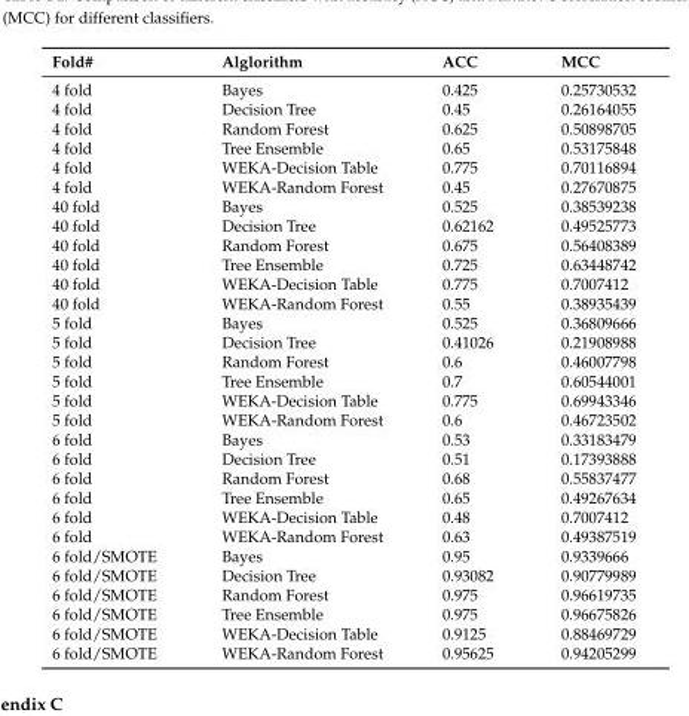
<table><thead><tr><td>Fold#</td><td>Alglorithm</td><td>ACC</td><td>MCC</td></tr></thead><tbody><tr><td>4 fold</td><td>Bayes</td><td>0.425</td><td>0.25730532</td></tr><tr><td>4 fold</td><td>Decision Tree</td><td>0.45</td><td>0.26164055</td></tr><tr><td>4 fold</td><td>Random Forest</td><td>0.625</td><td>0.50898705</td></tr><tr><td>4 fold</td><td>Tree Ensemble</td><td>0.65</td><td>0.53175848</td></tr><tr><td>4 fold</td><td>WEKA-Decision Table</td><td>0.775</td><td>0.70116894</td></tr><tr><td>4 fold</td><td>WEKA-Random Forest</td><td>0.45</td><td>0.27670875</td></tr><tr><td>40 fold</td><td>Bayes</td><td>0.525</td><td>0.38539238</td></tr><tr><td>40 fold</td><td>Decision Tree</td><td>0.62162</td><td>0.49525773</td></tr><tr><td>40 fold</td><td>Random Forest</td><td>0.675</td><td>0.56408389</td></tr><tr><td>40 fold</td><td>Tree Ensemble</td><td>0.725</td><td>0.63448742</td></tr><tr><td>40 fold</td><td>WEKA-Decision Table</td><td>0.775</td><td>0.7007412</td></tr><tr><td>40 fold</td><td>WEKA-Random Forest</td><td>0.55</td><td>0.38935439</td></tr><tr><td>5 fold</td><td>Bayes</td><td>0.525</td><td>0.36809666</td></tr><tr><td>5 fold</td><td>Decision Tree</td><td>0.41026</td><td>0.21908988</td></tr><tr><td>5 fold</td><td>Random Forest</td><td>0.6</td><td>0.46007798</td></tr><tr><td>5 fold</td><td>Tree Ensemble</td><td>0.7</td><td>0.60544001</td></tr><tr><td>5 fold</td><td>WEKA-Decision Table</td><td>0.775</td><td>0.69943346</td></tr><tr><td>5 fold</td><td>WEKA-Random Forest</td><td>0.6</td><td>0.46723502</td></tr><tr><td>6 fold</td><td>Bayes</td><td>0.53</td><td>0.33183479</td></tr><tr><td>6 fold</td><td>Decision Tree</td><td>0.51</td><td>0.17393888</td></tr><tr><td>6 fold</td><td>Random Forest</td><td>0.68</td><td>0.55837477</td></tr><tr><td>6 fold</td><td>Tree Ensemble</td><td>0.65</td><td>0.49267634</td></tr><tr><td>6 fold</td><td>WEKA-Decision Table</td><td>0.48</td><td>0.7007412</td></tr><tr><td>6 fold</td><td>WEKA-Random Forest</td><td>0.63</td><td>0.49387519</td></tr><tr><td>6 fold/SMOTE</td><td>Bayes</td><td>0.95</td><td>0.9339666</td></tr><tr><td>6 fold/SMOTE</td><td>Decision Tree</td><td>0.93082</td><td>0.90779989</td></tr><tr><td>6 fold/SMOTE</td><td>Random Forest</td><td>0.975</td><td>0.96619735</td></tr><tr><td>6 fold/SMOTE</td><td>Tree Ensemble</td><td>0.975</td><td>0.96675826</td></tr><tr><td>6 fold/SMOTE</td><td>WEKA-Decision Table</td><td>0.9125</td><td>0.88469729</td></tr><tr><td>6 fold/SMOTE</td><td>WEKA-Random Forest</td><td>0.95625</td><td>0.94205299</td></tr></tbody></table>